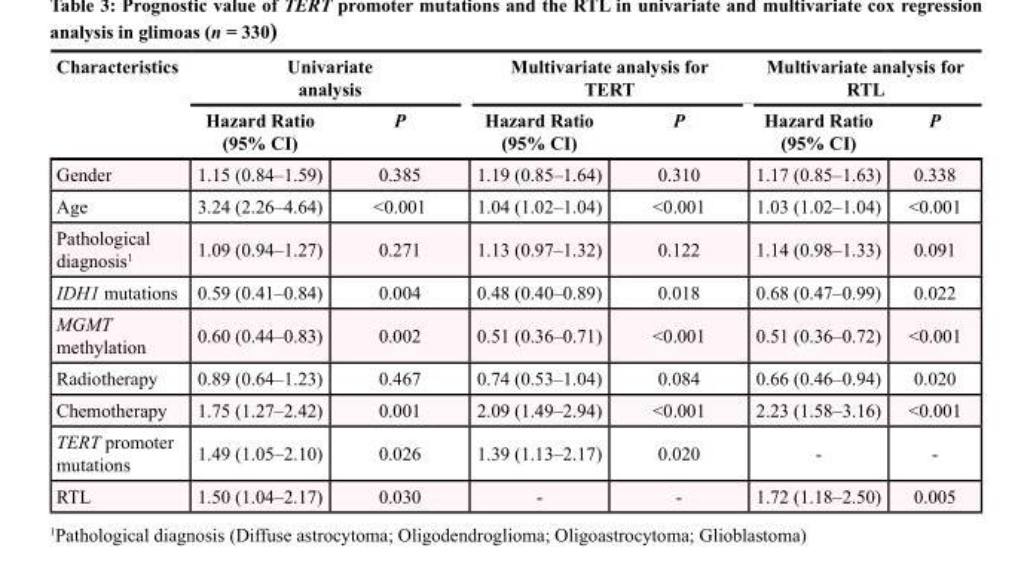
<table><thead><tr><td rowspan="2">Characteristics</td><td colspan="2">Univariate analysis</td><td colspan="2">Multivariate analysis for TERT</td><td colspan="2">Multivariate analysis for RTL</td></tr><tr><td>Hazard Ratio (95% CI)</td><td>P</td><td>Hazard Ratio (95% CI)</td><td>P</td><td>Hazard Ratio (95% CI)</td><td>P</td></tr></thead><tbody><tr><td>Gender</td><td>1.15 (0.84–1.59)</td><td>0.385</td><td>1.19 (0.85–1.64)</td><td>0.310</td><td>1.17 (0.85–1.63)</td><td>0.338</td></tr><tr><td>Age</td><td>3.24 (2.26–4.64)</td><td>&lt;0.001</td><td>1.04 (1.02–1.04)</td><td>&lt;0.001</td><td>1.03 (1.02–1.04)</td><td>&lt;0.001</td></tr><tr><td>Pathological diagnosis<sup>1</sup></td><td>1.09 (0.94–1.27)</td><td>0.271</td><td>1.13 (0.97–1.32)</td><td>0.122</td><td>1.14 (0.98–1.33)</td><td>0.091</td></tr><tr><td>IDH1 mutations</td><td>0.59 (0.41–0.84)</td><td>0.004</td><td>0.48 (0.40–0.89)</td><td>0.018</td><td>0.68 (0.47–0.99)</td><td>0.022</td></tr><tr><td>MGMT methylation</td><td>0.60 (0.44–0.83)</td><td>0.002</td><td>0.51 (0.36–0.71)</td><td>&lt;0.001</td><td>0.51 (0.36–0.72)</td><td>&lt;0.001</td></tr><tr><td>Radiotherapy</td><td>0.89 (0.64–1.23)</td><td>0.467</td><td>0.74 (0.53–1.04)</td><td>0.084</td><td>0.66 (0.46–0.94)</td><td>0.020</td></tr><tr><td>Chemotherapy</td><td>1.75 (1.27–2.42)</td><td>0.001</td><td>2.09 (1.49–2.94)</td><td>&lt;0.001</td><td>2.23 (1.58–3.16)</td><td>&lt;0.001</td></tr><tr><td>TERT promoter mutations</td><td>1.49 (1.05–2.10)</td><td>0.026</td><td>1.39 (1.13–2.17)</td><td>0.020</td><td>-</td><td>-</td></tr><tr><td>RTL</td><td>1.50 (1.04–2.17)</td><td>0.030</td><td>-</td><td>-</td><td>1.72 (1.18–2.50)</td><td>0.005</td></tr></tbody></table>